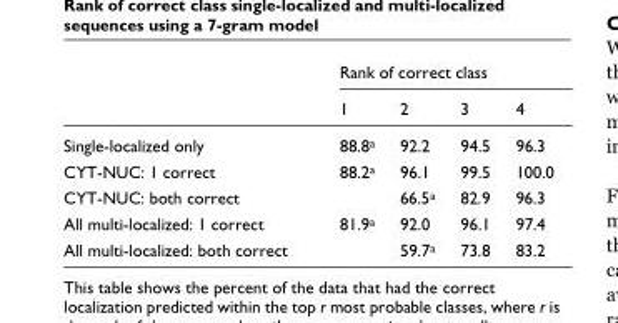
<table><thead><tr><td rowspan="2"></td><td colspan="4">Rank of correct class</td></tr><tr><td>1</td><td>2</td><td>3</td><td>4</td></tr></thead><tbody><tr><td>Single-localized only</td><td>88.8<sup>a</sup></td><td>92.2</td><td>94.5</td><td>96.3</td></tr><tr><td>CYT-NUC: 1 correct</td><td>88.2<sup>a</sup></td><td>96.1</td><td>99.5</td><td>100.0</td></tr><tr><td>CYT-NUC: both correct</td><td></td><td>66.5<sup>a</sup></td><td>82.9</td><td>96.3</td></tr><tr><td>All multi-localized: 1 correct</td><td>81.9<sup>a</sup></td><td>92.0</td><td>96.1</td><td>97.4</td></tr><tr><td>All multi-localized: both correct</td><td></td><td>59.7<sup>a</sup></td><td>73.8</td><td>83.2</td></tr></tbody></table>